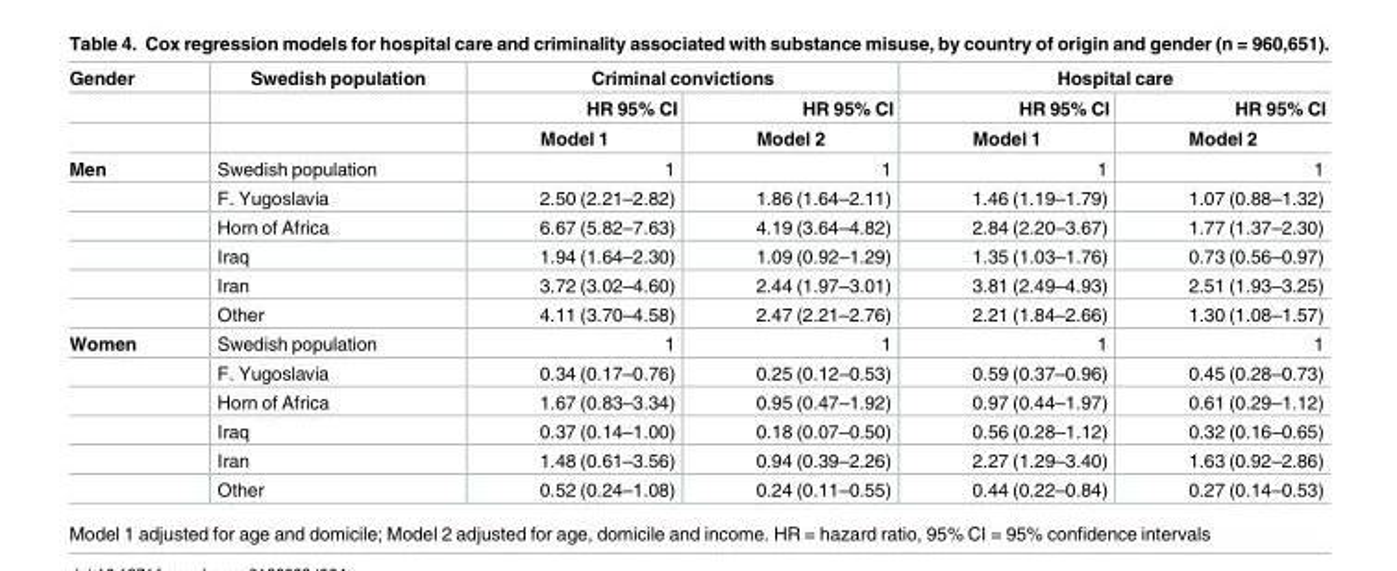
<table><thead><tr><td rowspan="3">Gender</td><td rowspan="3">Swedish population</td><td colspan="2">Criminal convictions</td><td colspan="2">Hospital care</td></tr><tr><td rowspan="2">HR 95% CI Model 1</td><td rowspan="2">HR 95% CI Model 2</td><td rowspan="2">HR 95% CI Model 1</td><td rowspan="2">HR 95% CI Model 2</td></tr><tr></tr></thead><tbody><tr><td rowspan="6">Men</td><td>Swedish population</td><td>1</td><td>1</td><td>1</td><td>1</td></tr><tr><td>F. Yugoslavia</td><td>2.50 (2.21–2.82)</td><td>1.86 (1.64–2.11)</td><td>1.46 (1.19–1.79)</td><td>1.07 (0.88–1.32)</td></tr><tr><td>Horn of Africa</td><td>6.67 (5.82–7.63)</td><td>4.19 (3.64–4.82)</td><td>2.84 (2.20–3.67)</td><td>1.77 (1.37–2.30)</td></tr><tr><td>Iraq</td><td>1.94 (1.64–2.30)</td><td>1.09 (0.92–1.29)</td><td>1.35 (1.03–1.76)</td><td>0.73 (0.56–0.97)</td></tr><tr><td>Iran</td><td>3.72 (3.02–4.60)</td><td>2.44 (1.97–3.01)</td><td>3.81 (2.49–4.93)</td><td>2.51 (1.93–3.25)</td></tr><tr><td>Other</td><td>4.11 (3.70–4.58)</td><td>2.47 (2.21–2.76)</td><td>2.21 (1.84–2.66)</td><td>1.30 (1.08–1.57)</td></tr><tr><td rowspan="6">Women</td><td>Swedish population</td><td>1</td><td>1</td><td>1</td><td>1</td></tr><tr><td>F. Yugoslavia</td><td>0.34 (0.17–0.76)</td><td>0.25 (0.12–0.53)</td><td>0.59 (0.37–0.96)</td><td>0.45 (0.28–0.73)</td></tr><tr><td>Horn of Africa</td><td>1.67 (0.83–3.34)</td><td>0.95 (0.47–1.92)</td><td>0.97 (0.44–1.97)</td><td>0.61 (0.29–1.12)</td></tr><tr><td>Iraq</td><td>0.37 (0.14–1.00)</td><td>0.18 (0.07–0.50)</td><td>0.56 (0.28–1.12)</td><td>0.32 (0.16–0.65)</td></tr><tr><td>Iran</td><td>1.48 (0.61–3.56)</td><td>0.94 (0.39–2.26)</td><td>2.27 (1.29–3.40)</td><td>1.63 (0.92–2.86)</td></tr><tr><td>Other</td><td>0.52 (0.24–1.08)</td><td>0.24 (0.11–0.55)</td><td>0.44 (0.22–0.84)</td><td>0.27 (0.14–0.53)</td></tr></tbody></table>